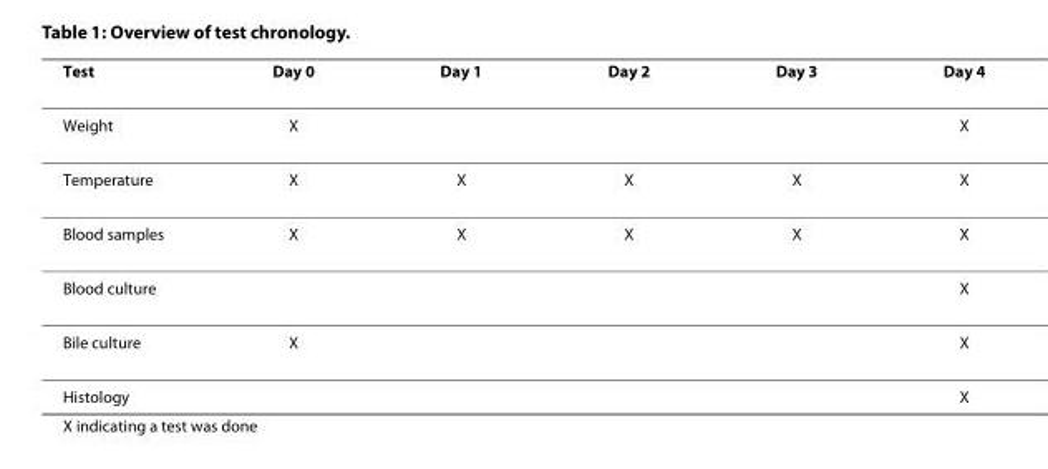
<table><thead><tr><td>Test</td><td>Day 0</td><td>Day 1</td><td>Day 2</td><td>Day 3</td><td>Day 4</td></tr></thead><tbody><tr><td>Weight</td><td>X</td><td></td><td></td><td></td><td>X</td></tr><tr><td>Temperature</td><td>X</td><td>X</td><td>X</td><td>X</td><td>X</td></tr><tr><td>Blood samples</td><td>X</td><td>X</td><td>X</td><td>X</td><td>X</td></tr><tr><td>Blood culture</td><td></td><td></td><td></td><td></td><td>X</td></tr><tr><td>Bile culture</td><td>X</td><td></td><td></td><td></td><td>X</td></tr><tr><td>Histology</td><td></td><td></td><td></td><td></td><td>X</td></tr></tbody></table>